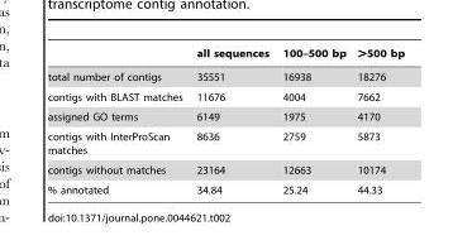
<table><thead><tr><td></td><td>all sequences</td><td>100–500 bp</td><td>&gt;500 bp</td></tr></thead><tbody><tr><td>total number of contigs</td><td>35551</td><td>16938</td><td>18276</td></tr><tr><td>contigs with BLAST matches</td><td>11676</td><td>4004</td><td>7662</td></tr><tr><td>assigned GO terms</td><td>6149</td><td>1975</td><td>4170</td></tr><tr><td>contigs with InterProScan matches</td><td>8636</td><td>2759</td><td>5873</td></tr><tr><td>contigs without matches</td><td>23164</td><td>12663</td><td>10174</td></tr><tr><td>% annotated</td><td>34.84</td><td>25.24</td><td>44.33</td></tr></tbody></table>